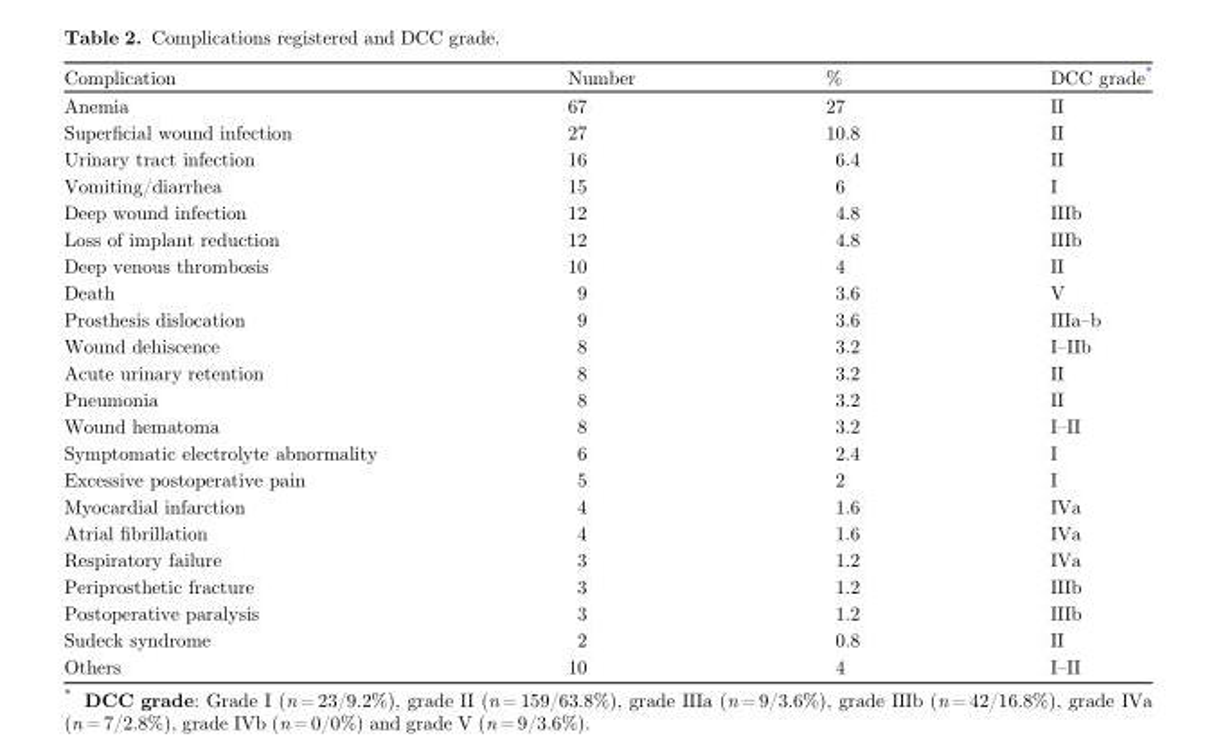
<table><thead><tr><td>Complication</td><td>Number</td><td>%</td><td>DCC grade*</td></tr></thead><tbody><tr><td>Anemia</td><td>67</td><td>27</td><td>II</td></tr><tr><td>Superficial wound infection</td><td>27</td><td>10.8</td><td>II</td></tr><tr><td>Urinary tract infection</td><td>16</td><td>6.4</td><td>II</td></tr><tr><td>Vomiting/diarrhea</td><td>15</td><td>6</td><td>I</td></tr><tr><td>Deep wound infection</td><td>12</td><td>4.8</td><td>IIIb</td></tr><tr><td>Loss of implant reduction</td><td>12</td><td>4.8</td><td>IIIb</td></tr><tr><td>Deep venous thrombosis</td><td>10</td><td>4</td><td>II</td></tr><tr><td>Death</td><td>9</td><td>3.6</td><td>V</td></tr><tr><td>Prosthesis dislocation</td><td>9</td><td>3.6</td><td>IIIa–b</td></tr><tr><td>Wound dehiscence</td><td>8</td><td>3.2</td><td>I–IIb</td></tr><tr><td>Acute urinary retention</td><td>8</td><td>3.2</td><td>II</td></tr><tr><td>Pneumonia</td><td>8</td><td>3.2</td><td>II</td></tr><tr><td>Wound hematoma</td><td>8</td><td>3.2</td><td>I–II</td></tr><tr><td>Symptomatic electrolyte abnormality</td><td>6</td><td>2.4</td><td>I</td></tr><tr><td>Excessive postoperative pain</td><td>5</td><td>2</td><td>I</td></tr><tr><td>Myocardial infarction</td><td>4</td><td>1.6</td><td>IVa</td></tr><tr><td>Atrial fibrillation</td><td>4</td><td>1.6</td><td>IVa</td></tr><tr><td>Respiratory failure</td><td>3</td><td>1.2</td><td>IVa</td></tr><tr><td>Periprosthetic fracture</td><td>3</td><td>1.2</td><td>IIIb</td></tr><tr><td>Postoperative paralysis</td><td>3</td><td>1.2</td><td>IIIb</td></tr><tr><td>Sudeck syndrome</td><td>2</td><td>0.8</td><td>II</td></tr><tr><td>Others</td><td>10</td><td>4</td><td>I–II</td></tr></tbody></table>